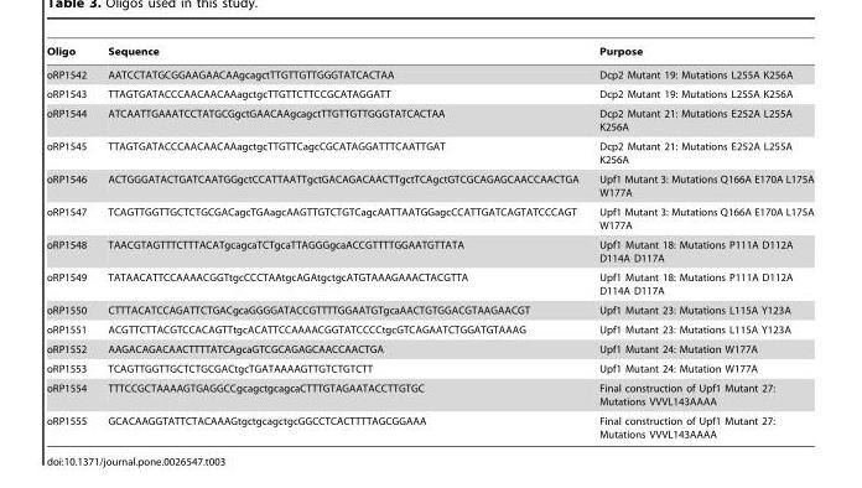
<table><thead><tr><td>Oligo</td><td>Sequence</td><td>Purpose</td></tr></thead><tbody><tr><td>oRP1542</td><td>AATCCTATGCGGAAGAACAAgcagctTTGTTGTTGGGTATCACTAA</td><td>Dcp2 Mutant 19: Mutations L255A K256A</td></tr><tr><td>oRP1543</td><td>TTAGTGATACCCAACAACAAagctgcTTGTTCTTCCGCATAGGATT</td><td>Dcp2 Mutant 19: Mutations L255A K256A</td></tr><tr><td>oRP1544</td><td>ATCAATTGAAATCCTATGCGgctGAACAAgcagctTTGTTGTTGGGTATCACTAA</td><td>Dcp2 Mutant 21: Mutations E252A L255A K256A</td></tr><tr><td>oRP1545</td><td>TTAGTGATACCCAACAACAAagctgcTTGTTCagcCGCATAGGATTTCAATTGAT</td><td>Dcp2 Mutant 21: Mutations E252A L255A K256A</td></tr><tr><td>oRP1546</td><td>ACTGGGATACTGATCAATGGgctCCATTAATTgctGACAGACAACTTgctTCAgctGTCGCAGAGCAACCAACTGA</td><td>Upf1 Mutant 3: Mutations Q166A E170A L175A W177A</td></tr><tr><td>oRP1547</td><td>TCAGTTGGTTGCTCTGCGACagcTGAagcAAGTTGTCTGTCagcAATTAATGGagcCCATTGATCAGTATCCCAGT</td><td>Upf1 Mutant 3: Mutations Q166A E170A L175A W177A</td></tr><tr><td>oRP1548</td><td>TAACGTAGTTTCTTTACATgcagcaTCTgcaTTAGGGgcaACCGTTTTGGAATGTTATA</td><td>Upf1 Mutant 18: Mutations P111A D112A D114A D117A</td></tr><tr><td>oRP1549</td><td>TATAACATTCCAAAACGGTtgcCCCTAAtgcAGAtgctgcATGTAAAGAAACTACGTTA</td><td>Upf1 Mutant 18: Mutations P111A D112A D114A D117A</td></tr><tr><td>oRP1550</td><td>CTTTACATCCAGATTCTGACgcaGGGGATACCGTTTTGGAATGTgcaAACTGTGGACGTAAGAACGT</td><td>Upf1 Mutant 23: Mutations L115A Y123A</td></tr><tr><td>oRP1551</td><td>ACGTTCTTACGTCCACAGTTtgcACATTCCAAAACGGTATCCCCtgcGTCAGAATCTGGATGTAAAG</td><td>Upf1 Mutant 23: Mutations L115A Y123A</td></tr><tr><td>oRP1552</td><td>AAGACAGACAACTTTTATCAgcaGTCGCAGAGCAACCAACTGA</td><td>Upf1 Mutant 24: Mutation W177A</td></tr><tr><td>oRP1553</td><td>TCAGTTGGTTGCTCTGCGACtgcTGATAAAAGTTGTCTGTCTT</td><td>Upf1 Mutant 24: Mutation W177A</td></tr><tr><td>oRP1554</td><td>TTTCCGCTAAAAGTGAGGCCgcagctgcagcaCTTTGTAGAATACCTTGTGC</td><td>Final construction of Upf1 Mutant 27: Mutations VVVL143AAAA</td></tr><tr><td>oRP1555</td><td>GCACAAGGTATTCTACAAAGtgctgcagctgcGGCCTCACTTTTAGCGGAAA</td><td>Final construction of Upf1 Mutant 27: Mutations VVVL143AAAA</td></tr></tbody></table>